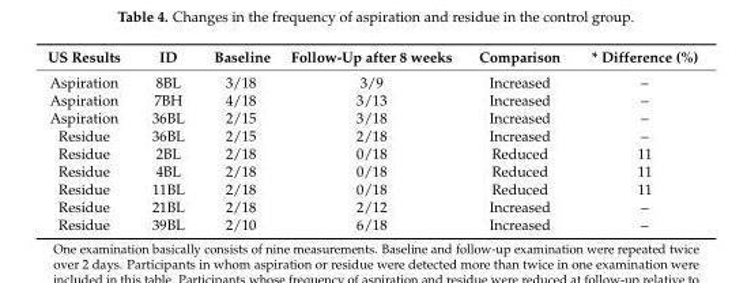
<table><thead><tr><td>US Results</td><td>ID</td><td>Baseline</td><td>Follow-Up after 8 weeks</td><td>Comparison</td><td>* Difference (%)</td></tr></thead><tbody><tr><td>Aspiration</td><td>8BL</td><td>3/18</td><td>3/9</td><td>Increased</td><td>–</td></tr><tr><td>Aspiration</td><td>7BH</td><td>4/18</td><td>3/13</td><td>Increased</td><td>–</td></tr><tr><td>Aspiration</td><td>36BL</td><td>2/15</td><td>3/18</td><td>Increased</td><td>–</td></tr><tr><td>Residue</td><td>36BL</td><td>2/15</td><td>2/18</td><td>Increased</td><td>–</td></tr><tr><td>Residue</td><td>2BL</td><td>2/18</td><td>0/18</td><td>Reduced</td><td>11</td></tr><tr><td>Residue</td><td>4BL</td><td>2/18</td><td>0/18</td><td>Reduced</td><td>11</td></tr><tr><td>Residue</td><td>11BL</td><td>2/18</td><td>0/18</td><td>Reduced</td><td>11</td></tr><tr><td>Residue</td><td>21BL</td><td>2/18</td><td>2/12</td><td>Increased</td><td>–</td></tr><tr><td>Residue</td><td>39BL</td><td>2/10</td><td>6/18</td><td>Increased</td><td>–</td></tr></tbody></table>